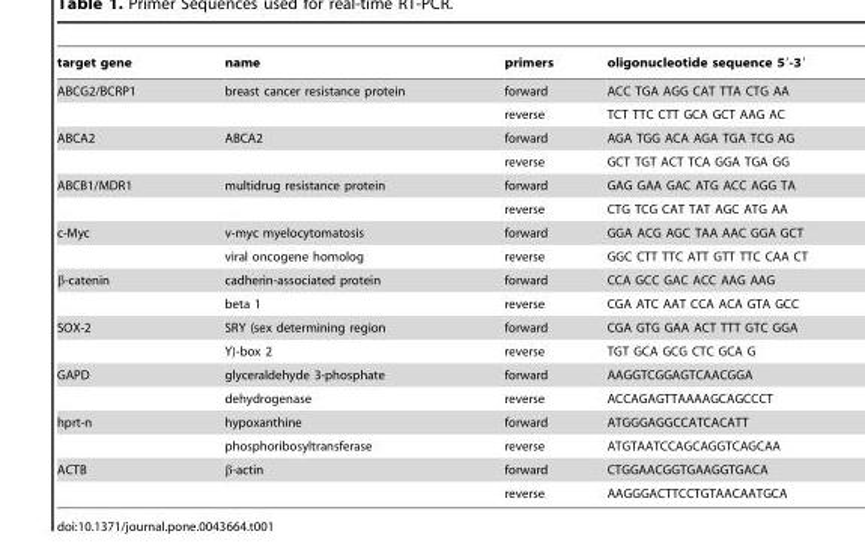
<table><thead><tr><td>target gene</td><td>name</td><td>primers</td><td>oligonucleotide sequence 5′-3′</td></tr></thead><tbody><tr><td rowspan="2">ABCG2/BCRP1</td><td>breast cancer resistance protein</td><td>forward</td><td>ACC TGA AGG CAT TTA CTG AA</td></tr><tr><td></td><td>reverse</td><td>TCT TTC CTT GCA GCT AAG AC</td></tr><tr><td rowspan="2">ABCA2</td><td>ABCA2</td><td>forward</td><td>AGA TGG ACA AGA TGA TCG AG</td></tr><tr><td></td><td>reverse</td><td>GCT TGT ACT TCA GGA TGA GG</td></tr><tr><td rowspan="2">ABCB1/MDR1</td><td>multidrug resistance protein</td><td>forward</td><td>GAG GAA GAC ATG ACC AGG TA</td></tr><tr><td></td><td>reverse</td><td>CTG TCG CAT TAT AGC ATG AA</td></tr><tr><td rowspan="2">c-Myc</td><td>v-myc myelocytomatosis</td><td>forward</td><td>GGA ACG AGC TAA AAC GGA GCT</td></tr><tr><td>viral oncogene homolog</td><td>reverse</td><td>GGC CTT TTC ATT GTT TTC CAA CT</td></tr><tr><td rowspan="2">β-catenin</td><td>cadherin-associated protein</td><td>forward</td><td>CCA GCC GAC ACC AAG AAG</td></tr><tr><td>beta 1</td><td>reverse</td><td>CGA ATC AAT CCA ACA GTA GCC</td></tr><tr><td rowspan="2">SOX-2</td><td>SRY (sex determining region</td><td>forward</td><td>CGA GTG GAA ACT TTT GTC GGA</td></tr><tr><td>Y)-box 2</td><td>reverse</td><td>TGT GCA GCG CTC GCA G</td></tr><tr><td rowspan="2">GAPD</td><td>glyceraldehyde 3-phosphate</td><td>forward</td><td>AAGGTCGGAGTCAACGGA</td></tr><tr><td>dehydrogenase</td><td>reverse</td><td>ACCAGAGTTAAAAGCAGCCCT</td></tr><tr><td rowspan="2">hprt-n</td><td>hypoxanthine</td><td>forward</td><td>ATGGGAGGCCATCACATT</td></tr><tr><td>phosphoribosyltransferase</td><td>reverse</td><td>ATGTAATCCAGCAGGTCAGCAA</td></tr><tr><td rowspan="2">ACTB</td><td>β-actin</td><td>forward</td><td>CTGGAACGGTGAAGGTGACA</td></tr><tr><td></td><td>reverse</td><td>AAGGGACTTCCTGTAACAATGCA</td></tr></tbody></table>